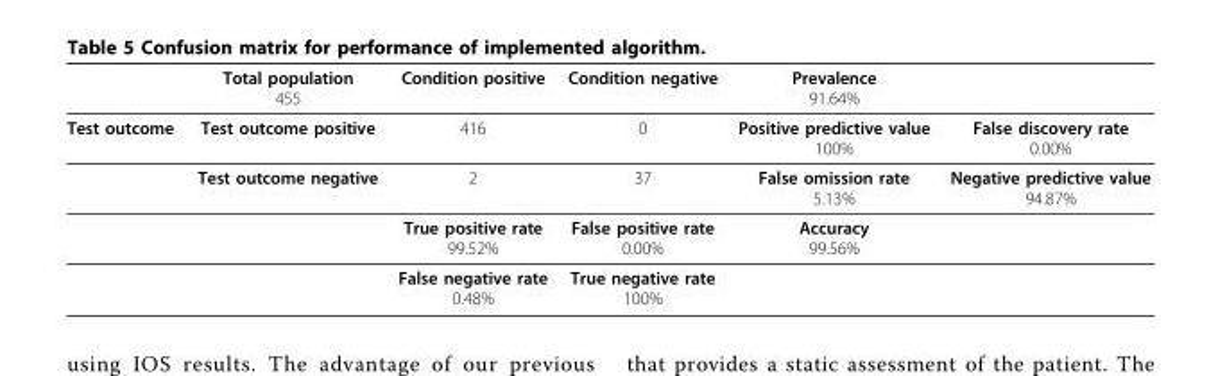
<table><thead><tr><td></td><td>Total population 455</td><td>Condition positive</td><td>Condition negative</td><td>Prevalence 91.64%</td><td></td></tr></thead><tbody><tr><td rowspan="4">Test outcome</td><td>Test outcome positive</td><td>416</td><td>0</td><td>Positive predictive value 100%</td><td>False discovery rate 0.00%</td></tr><tr><td>Test outcome negative</td><td>2</td><td>37</td><td>False omission rate 5.13%</td><td>Negative predictive value 94.87%</td></tr><tr><td></td><td>True positive rate 99.52%</td><td>False positive rate 0.00%</td><td>Accuracy 99.56%</td><td></td></tr><tr><td></td><td>False negative rate 0.48%</td><td>True negative rate 100%</td><td></td><td></td></tr></tbody></table>